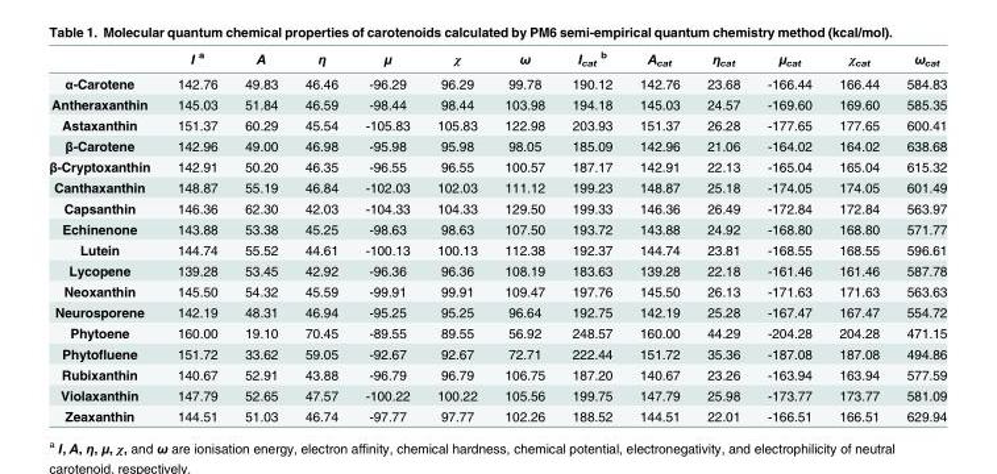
<table><thead><tr><td></td><td>I <sup>a</sup></td><td>A</td><td>η</td><td>μ</td><td>χ</td><td>ω</td><td>I<sub>cat</sub> <sup>b</sup></td><td>A<sub>cat</sub></td><td>η<sub>cat</sub></td><td>μ<sub>cat</sub></td><td>χ<sub>cat</sub></td><td>ω<sub>cat</sub></td></tr></thead><tbody><tr><td>α-Carotene</td><td>142.76</td><td>49.83</td><td>46.46</td><td>-96.29</td><td>96.29</td><td>99.78</td><td>190.12</td><td>142.76</td><td>23.68</td><td>-166.44</td><td>166.44</td><td>584.83</td></tr><tr><td>Antheraxanthin</td><td>145.03</td><td>51.84</td><td>46.59</td><td>-98.44</td><td>98.44</td><td>103.98</td><td>194.18</td><td>145.03</td><td>24.57</td><td>-169.60</td><td>169.60</td><td>585.35</td></tr><tr><td>Astaxanthin</td><td>151.37</td><td>60.29</td><td>45.54</td><td>-105.83</td><td>105.83</td><td>122.98</td><td>203.93</td><td>151.37</td><td>26.28</td><td>-177.65</td><td>177.65</td><td>600.41</td></tr><tr><td>β-Carotene</td><td>142.96</td><td>49.00</td><td>46.98</td><td>-95.98</td><td>95.98</td><td>98.05</td><td>185.09</td><td>142.96</td><td>21.06</td><td>-164.02</td><td>164.02</td><td>638.68</td></tr><tr><td>β-Cryptoxanthin</td><td>142.91</td><td>50.20</td><td>46.35</td><td>-96.55</td><td>96.55</td><td>100.57</td><td>187.17</td><td>142.91</td><td>22.13</td><td>-165.04</td><td>165.04</td><td>615.32</td></tr><tr><td>Canthaxanthin</td><td>148.87</td><td>55.19</td><td>46.84</td><td>-102.03</td><td>102.03</td><td>111.12</td><td>199.23</td><td>148.87</td><td>25.18</td><td>-174.05</td><td>174.05</td><td>601.49</td></tr><tr><td>Capsanthin</td><td>146.36</td><td>62.30</td><td>42.03</td><td>-104.33</td><td>104.33</td><td>129.50</td><td>199.33</td><td>146.36</td><td>26.49</td><td>-172.84</td><td>172.84</td><td>563.97</td></tr><tr><td>Echinenone</td><td>143.88</td><td>53.38</td><td>45.25</td><td>-98.63</td><td>98.63</td><td>107.50</td><td>193.72</td><td>143.88</td><td>24.92</td><td>-168.80</td><td>168.80</td><td>571.77</td></tr><tr><td>Lutein</td><td>144.74</td><td>55.52</td><td>44.61</td><td>-100.13</td><td>100.13</td><td>112.38</td><td>192.37</td><td>144.74</td><td>23.81</td><td>-168.55</td><td>168.55</td><td>596.61</td></tr><tr><td>Lycopene</td><td>139.28</td><td>53.45</td><td>42.92</td><td>-96.36</td><td>96.36</td><td>108.19</td><td>183.63</td><td>139.28</td><td>22.18</td><td>-161.46</td><td>161.46</td><td>587.78</td></tr><tr><td>Neoxanthin</td><td>145.50</td><td>54.32</td><td>45.59</td><td>-99.91</td><td>99.91</td><td>109.47</td><td>197.76</td><td>145.50</td><td>26.13</td><td>-171.63</td><td>171.63</td><td>563.63</td></tr><tr><td>Neurosporene</td><td>142.19</td><td>48.31</td><td>46.94</td><td>-95.25</td><td>95.25</td><td>96.64</td><td>192.75</td><td>142.19</td><td>25.28</td><td>-167.47</td><td>167.47</td><td>554.72</td></tr><tr><td>Phytoene</td><td>160.00</td><td>19.10</td><td>70.45</td><td>-89.55</td><td>89.55</td><td>56.92</td><td>248.57</td><td>160.00</td><td>44.29</td><td>-204.28</td><td>204.28</td><td>471.15</td></tr><tr><td>Phytofluene</td><td>151.72</td><td>33.62</td><td>59.05</td><td>-92.67</td><td>92.67</td><td>72.71</td><td>222.44</td><td>151.72</td><td>35.36</td><td>-187.08</td><td>187.08</td><td>494.86</td></tr><tr><td>Rubixanthin</td><td>140.67</td><td>52.91</td><td>43.88</td><td>-96.79</td><td>96.79</td><td>106.75</td><td>187.20</td><td>140.67</td><td>23.26</td><td>-163.94</td><td>163.94</td><td>577.59</td></tr><tr><td>Violaxanthin</td><td>147.79</td><td>52.65</td><td>47.57</td><td>-100.22</td><td>100.22</td><td>105.56</td><td>199.75</td><td>147.79</td><td>25.98</td><td>-173.77</td><td>173.77</td><td>581.09</td></tr><tr><td>Zeaxanthin</td><td>144.51</td><td>51.03</td><td>46.74</td><td>-97.77</td><td>97.77</td><td>102.26</td><td>188.52</td><td>144.51</td><td>22.01</td><td>-166.51</td><td>166.51</td><td>629.94</td></tr></tbody></table>